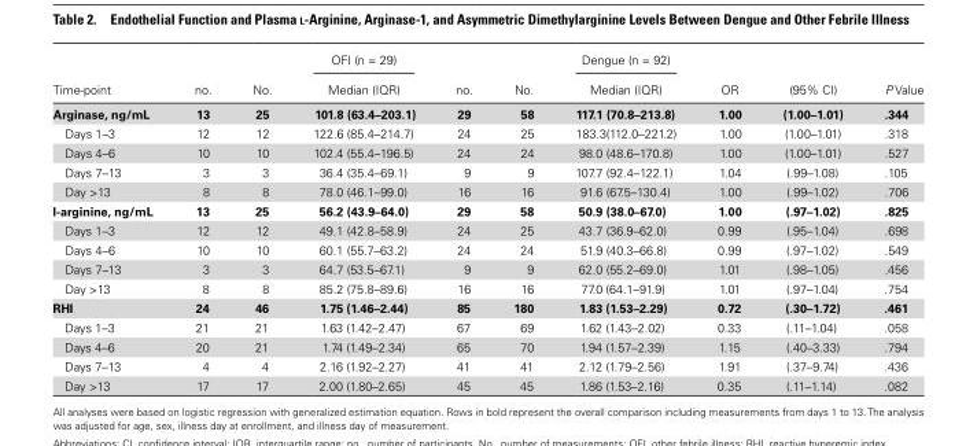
<table><thead><tr><td rowspan="2">Time-point</td><td rowspan="2">no.</td><td rowspan="2">No.</td><td rowspan="2">OFI (n = 29) Median (IQR)</td><td rowspan="2">no.</td><td rowspan="2">No.</td><td rowspan="2">Dengue (n = 92) Median (IQR)</td><td rowspan="2">OR</td><td rowspan="2">(95% CI)</td><td rowspan="2">P Value</td></tr><tr></tr></thead><tbody><tr><td>Arginase, ng/mL</td><td>13</td><td>25</td><td>101.8 (63.4–203.1)</td><td>29</td><td>58</td><td>117.1 (70.8–213.8)</td><td>1.00</td><td>(1.00–1.01)</td><td>.344</td></tr><tr><td>Days 1–3</td><td>12</td><td>12</td><td>122.6 (85.4–214.7)</td><td>24</td><td>25</td><td>183.3(112.0–221.2)</td><td>1.00</td><td>(1.00–1.01)</td><td>.318</td></tr><tr><td>Days 4–6</td><td>10</td><td>10</td><td>102.4 (55.4–196.5)</td><td>24</td><td>24</td><td>98.0 (48.6–170.8)</td><td>1.00</td><td>(1.00–1.01)</td><td>.527</td></tr><tr><td>Days 7–13</td><td>3</td><td>3</td><td>36.4 (35.4–69.1)</td><td>9</td><td>9</td><td>107.7 (92.4–122.1)</td><td>1.04</td><td>(.99–1.08)</td><td>.105</td></tr><tr><td>Day &gt;13</td><td>8</td><td>8</td><td>78.0 (46.1–99.0)</td><td>16</td><td>16</td><td>91.6 (67.5–130.4)</td><td>1.00</td><td>(.99–1.02)</td><td>.706</td></tr><tr><td>l-arginine, ng/mL</td><td>13</td><td>25</td><td>56.2 (43.9–64.0)</td><td>29</td><td>58</td><td>50.9 (38.0–67.0)</td><td>1.00</td><td>(.97–1.02)</td><td>.825</td></tr><tr><td>Days 1–3</td><td>12</td><td>12</td><td>49.1 (42.8–58.9)</td><td>24</td><td>25</td><td>43.7 (36.9–62.0)</td><td>0.99</td><td>(.95–1.04)</td><td>.698</td></tr><tr><td>Days 4–6</td><td>10</td><td>10</td><td>60.1 (55.7–63.2)</td><td>24</td><td>24</td><td>51.9 (40.3–66.8)</td><td>0.99</td><td>(.97–1.02)</td><td>.549</td></tr><tr><td>Days 7–13</td><td>3</td><td>3</td><td>64.7 (53.5–67.1)</td><td>9</td><td>9</td><td>62.0 (55.2–69.0)</td><td>1.01</td><td>(.98–1.05)</td><td>.456</td></tr><tr><td>Day &gt;13</td><td>8</td><td>8</td><td>85.2 (75.8–89.6)</td><td>16</td><td>16</td><td>77.0 (64.1–91.9)</td><td>1.01</td><td>(.97–1.04)</td><td>.754</td></tr><tr><td>RHI</td><td>24</td><td>46</td><td>1.75 (1.46–2.44)</td><td>85</td><td>180</td><td>1.83 (1.53–2.29)</td><td>0.72</td><td>(.30–1.72)</td><td>.461</td></tr><tr><td>Days 1–3</td><td>21</td><td>21</td><td>1.63 (1.42–2.47)</td><td>67</td><td>69</td><td>1.62 (1.43–2.02)</td><td>0.33</td><td>(.11–1.04)</td><td>.058</td></tr><tr><td>Days 4–6</td><td>20</td><td>21</td><td>1.74 (1.49–2.34)</td><td>65</td><td>70</td><td>1.94 (1.57–2.39)</td><td>1.15</td><td>(.40–3.33)</td><td>.794</td></tr><tr><td>Days 7–13</td><td>4</td><td>4</td><td>2.16 (1.92–2.27)</td><td>41</td><td>41</td><td>2.12 (1.79–2.56)</td><td>1.91</td><td>(.37–9.74)</td><td>.436</td></tr><tr><td>Day &gt;13</td><td>17</td><td>17</td><td>2.00 (1.80–2.65)</td><td>45</td><td>45</td><td>1.86 (1.53–2.16)</td><td>0.35</td><td>(.11–1.14)</td><td>.082</td></tr></tbody></table>